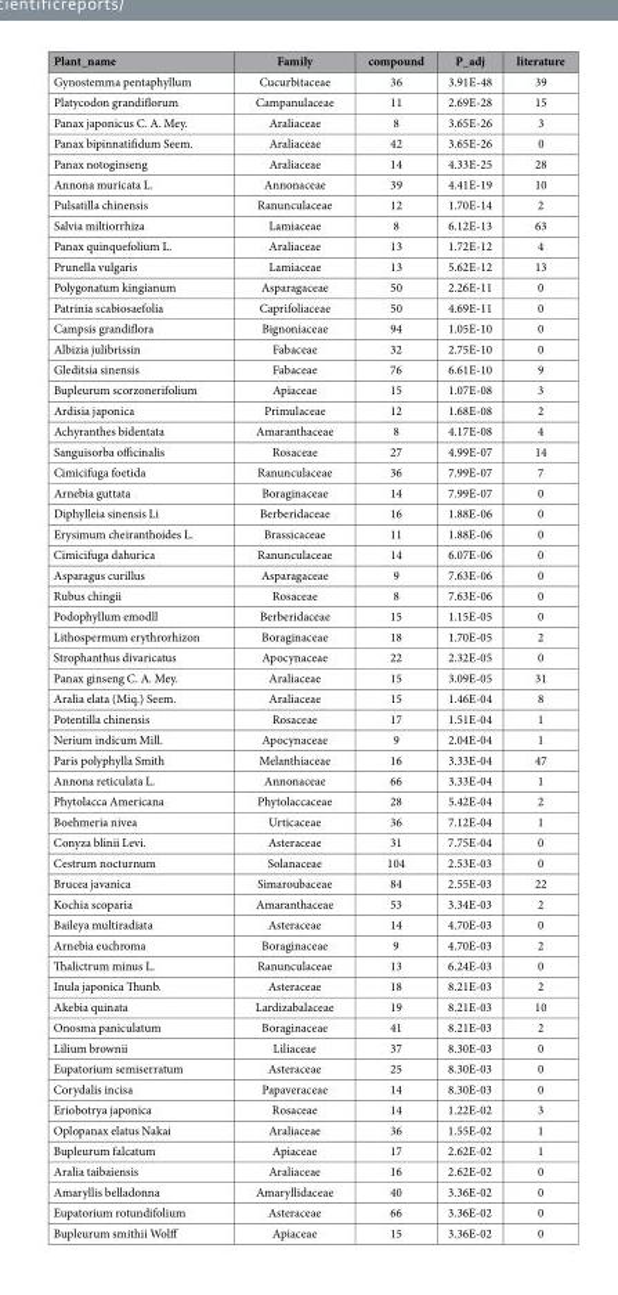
<table><thead><tr><td>Plant_name</td><td>Family</td><td>compound</td><td>P_adj</td><td>literature</td></tr></thead><tbody><tr><td>Gynostemma pentaphyllum</td><td>Cucurbitaceae</td><td>36</td><td>3.91E-48</td><td>39</td></tr><tr><td>Platycodon grandiflorum</td><td>Campanulaceae</td><td>11</td><td>2.69E-28</td><td>15</td></tr><tr><td>Panax japonicus C. A. Mey.</td><td>Araliaceae</td><td>8</td><td>3.65E-26</td><td>3</td></tr><tr><td>Panax bipinnatifidum Seem.</td><td>Araliaceae</td><td>42</td><td>3.65E-26</td><td>0</td></tr><tr><td>Panax notoginseng</td><td>Araliaceae</td><td>14</td><td>4.33E-25</td><td>28</td></tr><tr><td>Annona muricata L.</td><td>Annonaceae</td><td>39</td><td>4.41E-19</td><td>10</td></tr><tr><td>Pulsatilla chinensis</td><td>Ranunculaceae</td><td>12</td><td>1.70E-14</td><td>2</td></tr><tr><td>Salvia miltiorrhiza</td><td>Lamiaceae</td><td>8</td><td>6.12E-13</td><td>63</td></tr><tr><td>Panax quinquefolium L.</td><td>Araliaceae</td><td>13</td><td>1.72E-12</td><td>4</td></tr><tr><td>Prunella vulgaris</td><td>Lamiaceae</td><td>13</td><td>5.62E-12</td><td>13</td></tr><tr><td>Polygonatum kingianum</td><td>Asparagaceae</td><td>50</td><td>2.26E-11</td><td>0</td></tr><tr><td>Patrinia scabiosaefolia</td><td>Caprifoliaceae</td><td>50</td><td>4.69E-11</td><td>0</td></tr><tr><td>Campsis grandiflora</td><td>Bignoniaceae</td><td>94</td><td>1.05E-10</td><td>0</td></tr><tr><td>Albizia julibrissin</td><td>Fabaceae</td><td>32</td><td>2.75E-10</td><td>0</td></tr><tr><td>Gleditsia sinensis</td><td>Fabaceae</td><td>76</td><td>6.61E-10</td><td>9</td></tr><tr><td>Bupleurum scorzonerifolium</td><td>Apiaceae</td><td>15</td><td>1.07E-08</td><td>3</td></tr><tr><td>Ardisia japonica</td><td>Primulaceae</td><td>12</td><td>1.68E-08</td><td>2</td></tr><tr><td>Achyranthes bidentata</td><td>Amaranthaceae</td><td>8</td><td>4.17E-08</td><td>4</td></tr><tr><td>Sanguisorba officinalis</td><td>Rosaceae</td><td>27</td><td>4.99E-07</td><td>14</td></tr><tr><td>Cimicifuga foetida</td><td>Ranunculaceae</td><td>36</td><td>7.99E-07</td><td>7</td></tr><tr><td>Arnebia guttata</td><td>Boraginaceae</td><td>14</td><td>7.99E-07</td><td>0</td></tr><tr><td>Diphylleia sinensis Li</td><td>Berberidaceae</td><td>16</td><td>1.88E-06</td><td>0</td></tr><tr><td>Erysimum cheiranthoides L.</td><td>Brassicaceae</td><td>11</td><td>1.88E-06</td><td>0</td></tr><tr><td>Cimicifuga dahurica</td><td>Ranunculaceae</td><td>14</td><td>6.07E-06</td><td>0</td></tr><tr><td>Asparagus curillus</td><td>Asparagaceae</td><td>9</td><td>7.63E-06</td><td>0</td></tr><tr><td>Rubus chingii</td><td>Rosaceae</td><td>8</td><td>7.63E-06</td><td>0</td></tr><tr><td>Podophyllum emodll</td><td>Berberidaceae</td><td>15</td><td>1.15E-05</td><td>0</td></tr><tr><td>Lithospermum erythrorhizon</td><td>Boraginaceae</td><td>18</td><td>1.70E-05</td><td>2</td></tr><tr><td>Strophanthus divaricatus</td><td>Apocynaceae</td><td>22</td><td>2.32E-05</td><td>0</td></tr><tr><td>Panax ginseng C. A. Mey.</td><td>Araliaceae</td><td>15</td><td>3.09E-05</td><td>31</td></tr><tr><td>Aralia elata (Miq.) Seem.</td><td>Araliaceae</td><td>15</td><td>1.46E-04</td><td>8</td></tr><tr><td>Potentilla chinensis</td><td>Rosaceae</td><td>17</td><td>1.51E-04</td><td>1</td></tr><tr><td>Nerium indicum Mill.</td><td>Apocynaceae</td><td>9</td><td>2.04E-04</td><td>1</td></tr><tr><td>Paris polyphylla Smith</td><td>Melanthiaceae</td><td>16</td><td>3.33E-04</td><td>47</td></tr><tr><td>Annona reticulata L.</td><td>Annonaceae</td><td>66</td><td>3.33E-04</td><td>1</td></tr><tr><td>Phytolacca Americana</td><td>Phytolaccaceae</td><td>28</td><td>5.42E-04</td><td>2</td></tr><tr><td>Boehmeria nivea</td><td>Urticaceae</td><td>36</td><td>7.12E-04</td><td>1</td></tr><tr><td>Conyza blinii Levi.</td><td>Asteraceae</td><td>31</td><td>7.75E-04</td><td>0</td></tr><tr><td>Cestrum nocturnum</td><td>Solanaceae</td><td>104</td><td>2.53E-03</td><td>0</td></tr><tr><td>Brucea javanica</td><td>Simaroubaceae</td><td>84</td><td>2.55E-03</td><td>22</td></tr><tr><td>Kochia scoparia</td><td>Amaranthaceae</td><td>53</td><td>3.34E-03</td><td>2</td></tr><tr><td>Baileya multiradiata</td><td>Asteraceae</td><td>14</td><td>4.70E-03</td><td>0</td></tr><tr><td>Arnebia euchroma</td><td>Boraginaceae</td><td>9</td><td>4.70E-03</td><td>2</td></tr><tr><td>Thalictrum minus L.</td><td>Ranunculaceae</td><td>13</td><td>6.24E-03</td><td>0</td></tr><tr><td>Inula japonica Thunb.</td><td>Asteraceae</td><td>18</td><td>8.21E-03</td><td>2</td></tr><tr><td>Akebia quinata</td><td>Lardizabalaceae</td><td>19</td><td>8.21E-03</td><td>10</td></tr><tr><td>Onosma paniculatum</td><td>Boraginaceae</td><td>41</td><td>8.21E-03</td><td>2</td></tr><tr><td>Lilium brownii</td><td>Liliaceae</td><td>37</td><td>8.30E-03</td><td>0</td></tr><tr><td>Eupatorium semiserratum</td><td>Asteraceae</td><td>25</td><td>8.30E-03</td><td>0</td></tr><tr><td>Corydalis incisa</td><td>Papaveraceae</td><td>14</td><td>8.30E-03</td><td>0</td></tr><tr><td>Eriobotrya japonica</td><td>Rosaceae</td><td>14</td><td>1.22E-02</td><td>3</td></tr><tr><td>Oplopanax elatus Nakai</td><td>Araliaceae</td><td>36</td><td>1.55E-02</td><td>1</td></tr><tr><td>Bupleurum falcatum</td><td>Apiaceae</td><td>17</td><td>2.62E-02</td><td>1</td></tr><tr><td>Aralia taibaiensis</td><td>Araliaceae</td><td>16</td><td>2.62E-02</td><td>0</td></tr><tr><td>Amaryllis belladonna</td><td>Amaryllidaceae</td><td>40</td><td>3.36E-02</td><td>0</td></tr><tr><td>Eupatorium rotundifolium</td><td>Asteraceae</td><td>66</td><td>3.36E-02</td><td>0</td></tr><tr><td>Bupleurum smithii Wolff</td><td>Apiaceae</td><td>15</td><td>3.36E-02</td><td>0</td></tr></tbody></table>